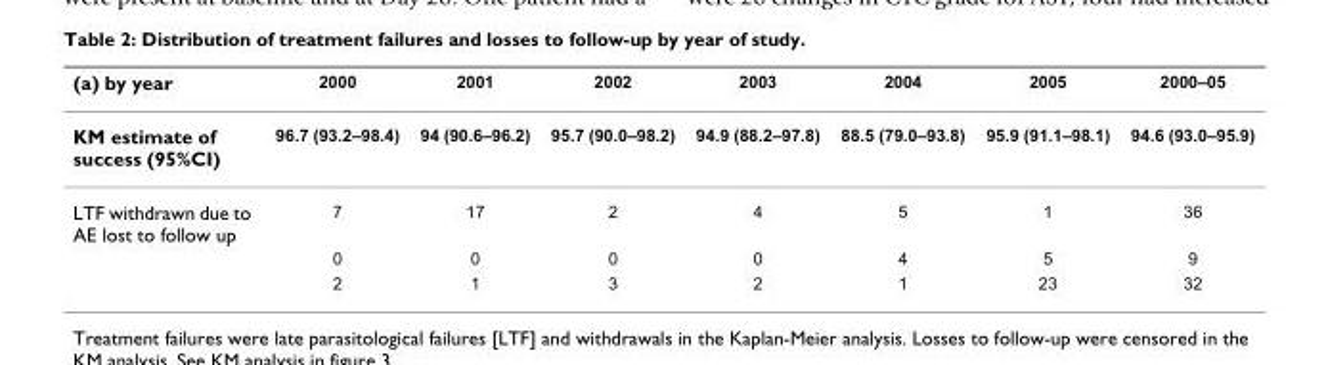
<table><thead><tr><td>(a) by year</td><td>2000</td><td>2001</td><td>2002</td><td>2003</td><td>2004</td><td>2005</td><td>2000–05</td></tr></thead><tbody><tr><td>KM estimate of success (95%CI)</td><td>96.7 (93.2–98.4)</td><td>94 (90.6–96.2)</td><td>95.7 (90.0–98.2)</td><td>94.9 (88.2–97.8)</td><td>88.5 (79.0–93.8)</td><td>95.9 (91.1–98.1)</td><td>94.6 (93.0–95.9)</td></tr><tr><td rowspan="3">LTF withdrawn due to AE lost to follow up</td><td>7</td><td>17</td><td>2</td><td>4</td><td>5</td><td>1</td><td>36</td></tr><tr><td>0</td><td>0</td><td>0</td><td>0</td><td>4</td><td>5</td><td>9</td></tr><tr><td>2</td><td>1</td><td>3</td><td>2</td><td>1</td><td>23</td><td>32</td></tr></tbody></table>